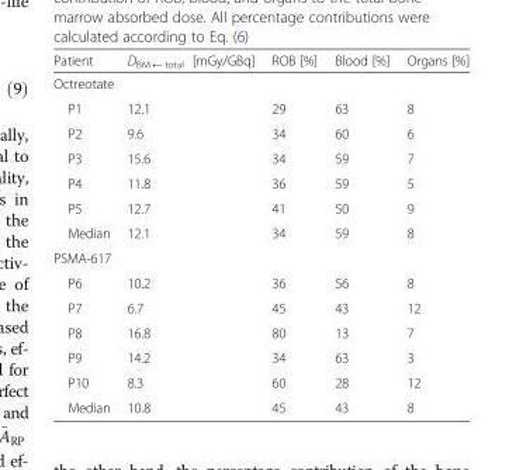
<table><thead><tr><td>Patient</td><td>D<sub>BM ← total</sub> [mGy/GBq]</td><td>ROB [%]</td><td>Blood [%]</td><td>Organs [%]</td></tr></thead><tbody><tr><td colspan="5">Octreotate</td></tr><tr><td>P1</td><td>12.1</td><td>29</td><td>63</td><td>8</td></tr><tr><td>P2</td><td>9.6</td><td>34</td><td>60</td><td>6</td></tr><tr><td>P3</td><td>15.6</td><td>34</td><td>59</td><td>7</td></tr><tr><td>P4</td><td>11.8</td><td>36</td><td>59</td><td>5</td></tr><tr><td>P5</td><td>12.7</td><td>41</td><td>50</td><td>9</td></tr><tr><td>Median</td><td>12.1</td><td>34</td><td>59</td><td>8</td></tr><tr><td colspan="5">PSMA-617</td></tr><tr><td>P6</td><td>10.2</td><td>36</td><td>56</td><td>8</td></tr><tr><td>P7</td><td>6.7</td><td>45</td><td>43</td><td>12</td></tr><tr><td>P8</td><td>16.8</td><td>80</td><td>13</td><td>7</td></tr><tr><td>P9</td><td>14.2</td><td>34</td><td>63</td><td>3</td></tr><tr><td>P10</td><td>8.3</td><td>60</td><td>28</td><td>12</td></tr><tr><td>Median</td><td>10.8</td><td>45</td><td>43</td><td>8</td></tr></tbody></table>